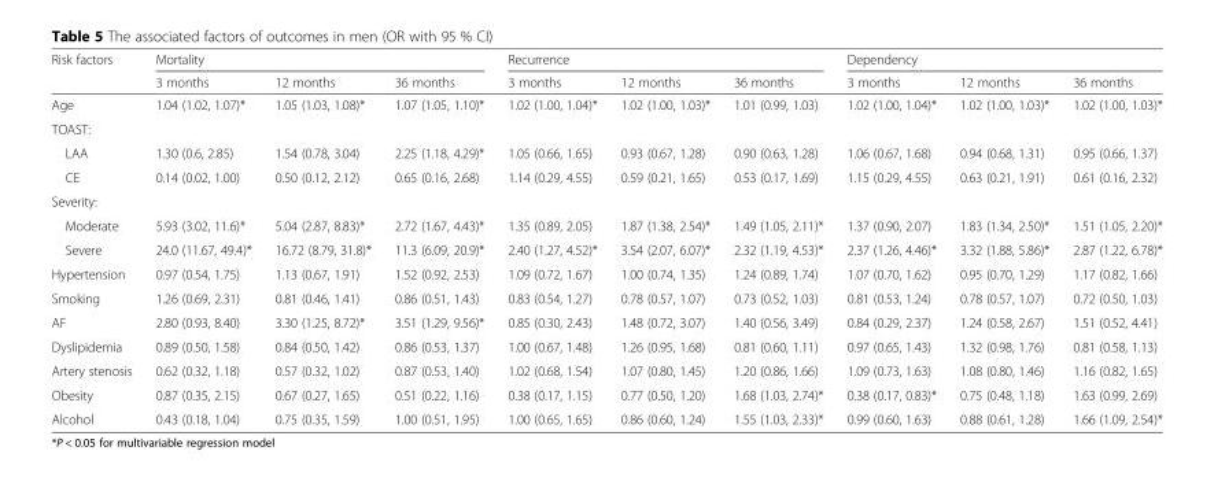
<table><thead><tr><td rowspan="2">Risk factors</td><td colspan="3">Mortality</td><td colspan="3">Recurrence</td><td colspan="3">Dependency</td></tr><tr><td>3 months</td><td>12 months</td><td>36 months</td><td>3 months</td><td>12 months</td><td>36 months</td><td>3 months</td><td>12 months</td><td>36 months</td></tr></thead><tbody><tr><td>Age</td><td>1.04 (1.02, 1.07)*</td><td>1.05 (1.03, 1.08)*</td><td>1.07 (1.05, 1.10)*</td><td>1.02 (1.00, 1.04)*</td><td>1.02 (1.00, 1.03)*</td><td>1.01 (0.99, 1.03)</td><td>1.02 (1.00, 1.04)*</td><td>1.02 (1.00, 1.03)*</td><td>1.02 (1.00, 1.03)*</td></tr><tr><td colspan="10">TOAST:</td></tr><tr><td>LAA</td><td>1.30 (0.6, 2.85)</td><td>1.54 (0.78, 3.04)</td><td>2.25 (1.18, 4.29)*</td><td>1.05 (0.66, 1.65)</td><td>0.93 (0.67, 1.28)</td><td>0.90 (0.63, 1.28)</td><td>1.06 (0.67, 1.68)</td><td>0.94 (0.68, 1.31)</td><td>0.95 (0.66, 1.37)</td></tr><tr><td>CE</td><td>0.14 (0.02, 1.00)</td><td>0.50 (0.12, 2.12)</td><td>0.65 (0.16, 2.68)</td><td>1.14 (0.29, 4.55)</td><td>0.59 (0.21, 1.65)</td><td>0.53 (0.17, 1.69)</td><td>1.15 (0.29, 4.55)</td><td>0.63 (0.21, 1.91)</td><td>0.61 (0.16, 2.32)</td></tr><tr><td colspan="10">Severity:</td></tr><tr><td>Moderate</td><td>5.93 (3.02, 11.6)*</td><td>5.04 (2.87, 8.83)*</td><td>2.72 (1.67, 4.43)*</td><td>1.35 (0.89, 2.05)</td><td>1.87 (1.38, 2.54)*</td><td>1.49 (1.05, 2.11)*</td><td>1.37 (0.90, 2.07)</td><td>1.83 (1.34, 2.50)*</td><td>1.51 (1.05, 2.20)*</td></tr><tr><td>Severe</td><td>24.0 (11.67, 49.4)*</td><td>16.72 (8.79, 31.8)*</td><td>11.3 (6.09, 20.9)*</td><td>2.40 (1.27, 4.52)*</td><td>3.54 (2.07, 6.07)*</td><td>2.32 (1.19, 4.53)*</td><td>2.37 (1.26, 4.46)*</td><td>3.32 (1.88, 5.86)*</td><td>2.87 (1.22, 6.78)*</td></tr><tr><td>Hypertension</td><td>0.97 (0.54, 1.75)</td><td>1.13 (0.67, 1.91)</td><td>1.52 (0.92, 2.53)</td><td>1.09 (0.72, 1.67)</td><td>1.00 (0.74, 1.35)</td><td>1.24 (0.89, 1.74)</td><td>1.07 (0.70, 1.62)</td><td>0.95 (0.70, 1.29)</td><td>1.17 (0.82, 1.66)</td></tr><tr><td>Smoking</td><td>1.26 (0.69, 2.31)</td><td>0.81 (0.46, 1.41)</td><td>0.86 (0.51, 1.43)</td><td>0.83 (0.54, 1.27)</td><td>0.78 (0.57, 1.07)</td><td>0.73 (0.52, 1.03)</td><td>0.81 (0.53, 1.24)</td><td>0.78 (0.57, 1.07)</td><td>0.72 (0.50, 1.03)</td></tr><tr><td>AF</td><td>2.80 (0.93, 8.40)</td><td>3.30 (1.25, 8.72)*</td><td>3.51 (1.29, 9.56)*</td><td>0.85 (0.30, 2.43)</td><td>1.48 (0.72, 3.07)</td><td>1.40 (0.56, 3.49)</td><td>0.84 (0.29, 2.37)</td><td>1.24 (0.58, 2.67)</td><td>1.51 (0.52, 4.41)</td></tr><tr><td>Dyslipidemia</td><td>0.89 (0.50, 1.58)</td><td>0.84 (0.50, 1.42)</td><td>0.86 (0.53, 1.37)</td><td>1.00 (0.67, 1.48)</td><td>1.26 (0.95, 1.68)</td><td>0.81 (0.60, 1.11)</td><td>0.97 (0.65, 1.43)</td><td>1.32 (0.98, 1.76)</td><td>0.81 (0.58, 1.13)</td></tr><tr><td>Artery stenosis</td><td>0.62 (0.32, 1.18)</td><td>0.57 (0.32, 1.02)</td><td>0.87 (0.53, 1.40)</td><td>1.02 (0.68, 1.54)</td><td>1.07 (0.80, 1.45)</td><td>1.20 (0.86, 1.66)</td><td>1.09 (0.73, 1.63)</td><td>1.08 (0.80, 1.46)</td><td>1.16 (0.82, 1.65)</td></tr><tr><td>Obesity</td><td>0.87 (0.35, 2.15)</td><td>0.67 (0.27, 1.65)</td><td>0.51 (0.22, 1.16)</td><td>0.38 (0.17, 1.15)</td><td>0.77 (0.50, 1.20)</td><td>1.68 (1.03, 2.74)*</td><td>0.38 (0.17, 0.83)*</td><td>0.75 (0.48, 1.18)</td><td>1.63 (0.99, 2.69)</td></tr><tr><td>Alcohol</td><td>0.43 (0.18, 1.04)</td><td>0.75 (0.35, 1.59)</td><td>1.00 (0.51, 1.95)</td><td>1.00 (0.65, 1.65)</td><td>0.86 (0.60, 1.24)</td><td>1.55 (1.03, 2.33)*</td><td>0.99 (0.60, 1.63)</td><td>0.88 (0.61, 1.28)</td><td>1.66 (1.09, 2.54)*</td></tr></tbody></table>